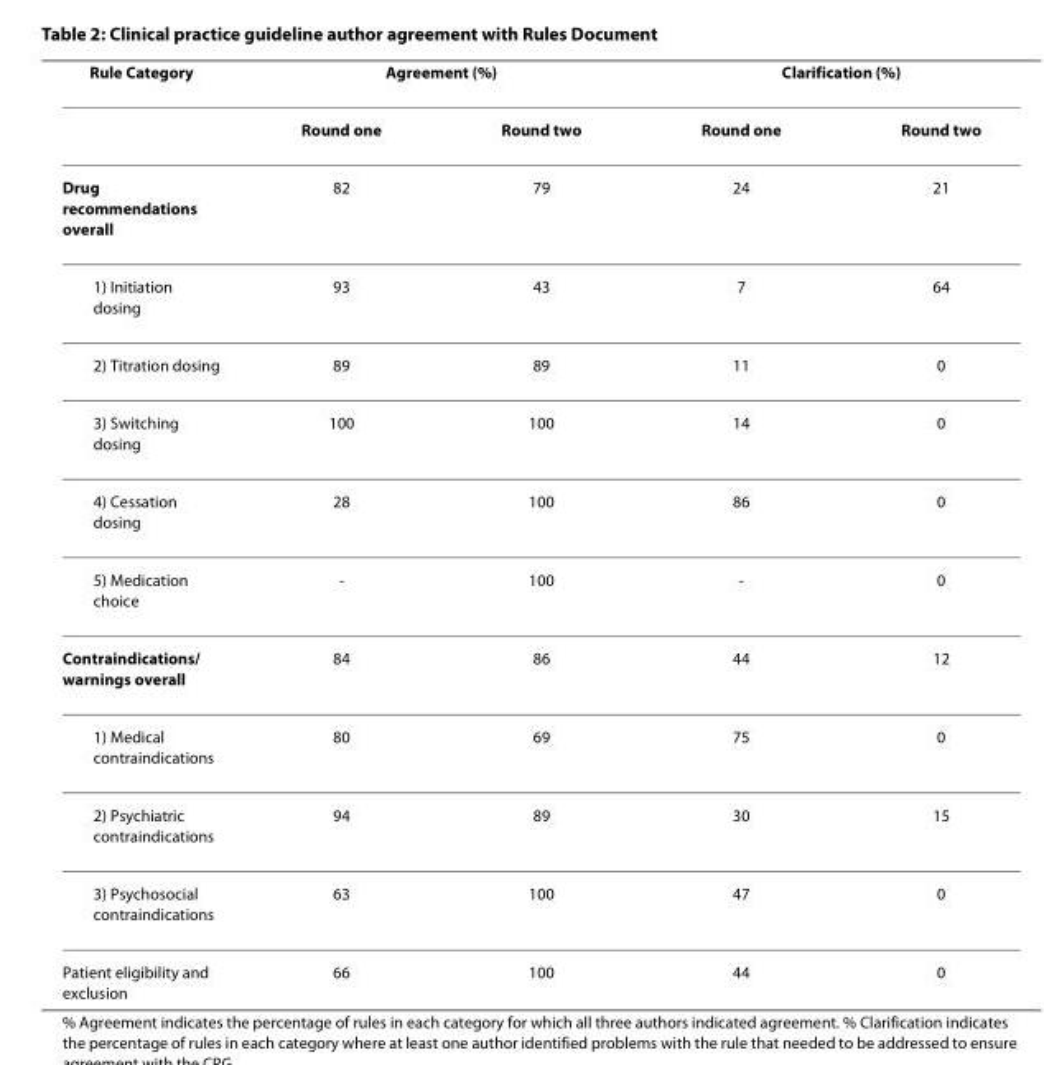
<table><thead><tr><td rowspan="2">Rule Category</td><td colspan="2">Agreement (%)</td><td colspan="2">Clarification (%)</td></tr><tr><td>Round one</td><td>Round two</td><td>Round one</td><td>Round two</td></tr></thead><tbody><tr><td>Drug recommendations overall</td><td>82</td><td>79</td><td>24</td><td>21</td></tr><tr><td>1) Initiation dosing</td><td>93</td><td>43</td><td>7</td><td>64</td></tr><tr><td>2) Titration dosing</td><td>89</td><td>89</td><td>11</td><td>0</td></tr><tr><td>3) Switching dosing</td><td>100</td><td>100</td><td>14</td><td>0</td></tr><tr><td>4) Cessation dosing</td><td>28</td><td>100</td><td>86</td><td>0</td></tr><tr><td>5) Medication choice</td><td>-</td><td>100</td><td>-</td><td>0</td></tr><tr><td>Contraindications/ warnings overall</td><td>84</td><td>86</td><td>44</td><td>12</td></tr><tr><td>1) Medical contraindications</td><td>80</td><td>69</td><td>75</td><td>0</td></tr><tr><td>2) Psychiatric contraindications</td><td>94</td><td>89</td><td>30</td><td>15</td></tr><tr><td>3) Psychosocial contraindications</td><td>63</td><td>100</td><td>47</td><td>0</td></tr><tr><td>Patient eligibility and exclusion</td><td>66</td><td>100</td><td>44</td><td>0</td></tr></tbody></table>